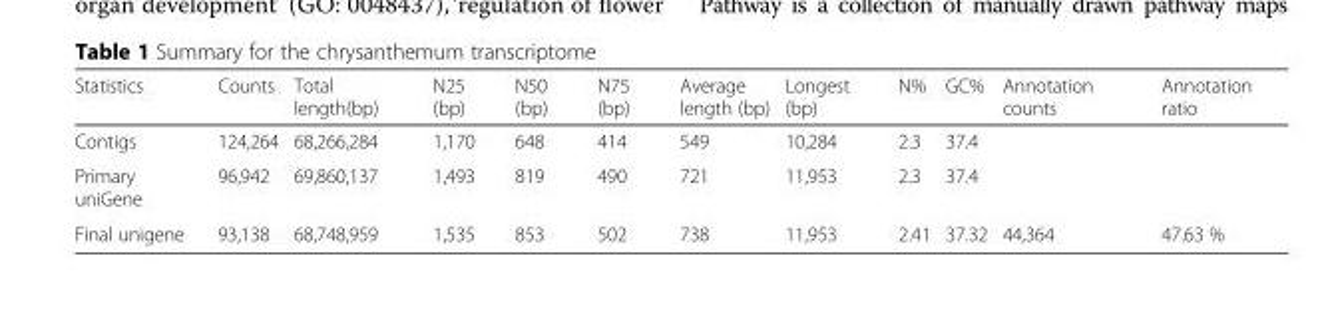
<table><thead><tr><td>Statistics</td><td>Counts</td><td>Total length(bp)</td><td>N25 (bp)</td><td>N50 (bp)</td><td>N75 (bp)</td><td>Average length (bp)</td><td>Longest (bp)</td><td>N%</td><td>GC%</td><td>Annotation counts</td><td>Annotation ratio</td></tr></thead><tbody><tr><td>Contigs</td><td>124,264</td><td>68,266,284</td><td>1,170</td><td>648</td><td>414</td><td>549</td><td>10,284</td><td>2.3</td><td>37.4</td><td></td><td></td></tr><tr><td>Primary uniGene</td><td>96,942</td><td>69,860,137</td><td>1,493</td><td>819</td><td>490</td><td>721</td><td>11,953</td><td>2.3</td><td>37.4</td><td></td><td></td></tr><tr><td>Final unigene</td><td>93,138</td><td>68,748,959</td><td>1,535</td><td>853</td><td>502</td><td>738</td><td>11,953</td><td>2.41</td><td>37.32</td><td>44,364</td><td>47.63 %</td></tr></tbody></table>